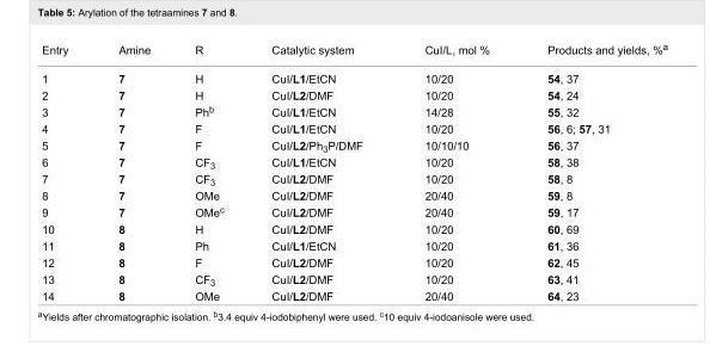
<table><tbody><tr><td>Entry</td><td>Amine</td><td>R</td><td>Catalytic system</td><td>CuI/L, mol %</td><td>Products and yields, %<sup>a</sup></td></tr><tr><td>1</td><td>7</td><td>H</td><td>CuI/L1/EtCN</td><td>10/20</td><td>54, 37</td></tr><tr><td>2</td><td>7</td><td>H</td><td>CuI/L2/DMF</td><td>10/20</td><td>54, 24</td></tr><tr><td>3</td><td>7</td><td>Ph<sup>b</sup></td><td>CuI/L1/EtCN</td><td>14/28</td><td>55, 32</td></tr><tr><td>4</td><td>7</td><td>F</td><td>CuI/L1/EtCN</td><td>10/20</td><td>56, 6; 57, 31</td></tr><tr><td>5</td><td>7</td><td>F</td><td>CuI/L2/Ph<sub>3</sub>P/DMF</td><td>10/10/10</td><td>56, 37</td></tr><tr><td>6</td><td>7</td><td>CF<sub>3</sub></td><td>CuI/L1/EtCN</td><td>10/20</td><td>58, 38</td></tr><tr><td>7</td><td>7</td><td>CF<sub>3</sub></td><td>CuI/L2/DMF</td><td>10/20</td><td>58, 8</td></tr><tr><td>8</td><td>7</td><td>OMe</td><td>CuI/L2/DMF</td><td>20/40</td><td>59, 8</td></tr><tr><td>9</td><td>7</td><td>OMe<sup>c</sup></td><td>CuI/L2/DMF</td><td>20/40</td><td>59, 17</td></tr><tr><td>10</td><td>8</td><td>H</td><td>CuI/L2/DMF</td><td>10/20</td><td>60, 69</td></tr><tr><td>11</td><td>8</td><td>Ph</td><td>CuI/L1/EtCN</td><td>10/20</td><td>61, 36</td></tr><tr><td>12</td><td>8</td><td>F</td><td>CuI/L2/DMF</td><td>10/20</td><td>62, 45</td></tr><tr><td>13</td><td>8</td><td>CF<sub>3</sub></td><td>CuI/L2/DMF</td><td>10/20</td><td>63, 41</td></tr><tr><td>14</td><td>8</td><td>OMe</td><td>CuI/L2/DMF</td><td>20/40</td><td>64, 23</td></tr></tbody></table>